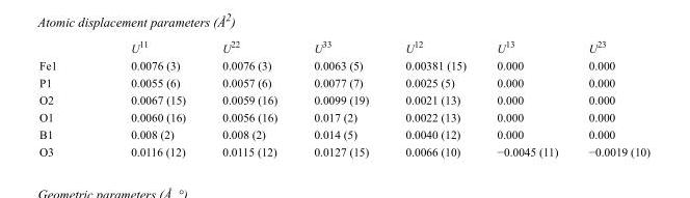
<table><thead><tr><td></td><td>U<sup>11</sup></td><td>U<sup>22</sup></td><td>U<sup>33</sup></td><td>U<sup>12</sup></td><td>U<sup>13</sup></td><td>U<sup>23</sup></td></tr></thead><tbody><tr><td>Fe1</td><td>0.0076 (3)</td><td>0.0076 (3)</td><td>0.0063 (5)</td><td>0.00381 (15)</td><td>0.000</td><td>0.000</td></tr><tr><td>P1</td><td>0.0055 (6)</td><td>0.0057 (6)</td><td>0.0077 (7)</td><td>0.0025 (5)</td><td>0.000</td><td>0.000</td></tr><tr><td>O2</td><td>0.0067 (15)</td><td>0.0059 (16)</td><td>0.0099 (19)</td><td>0.0021 (13)</td><td>0.000</td><td>0.000</td></tr><tr><td>O1</td><td>0.0060 (16)</td><td>0.0056 (16)</td><td>0.017 (2)</td><td>0.0022 (13)</td><td>0.000</td><td>0.000</td></tr><tr><td>B1</td><td>0.008 (2)</td><td>0.008 (2)</td><td>0.014 (5)</td><td>0.0040 (12)</td><td>0.000</td><td>0.000</td></tr><tr><td>O3</td><td>0.0116 (12)</td><td>0.0115 (12)</td><td>0.0127 (15)</td><td>0.0066 (10)</td><td>−0.0045 (11)</td><td>−0.0019 (10)</td></tr></tbody></table>